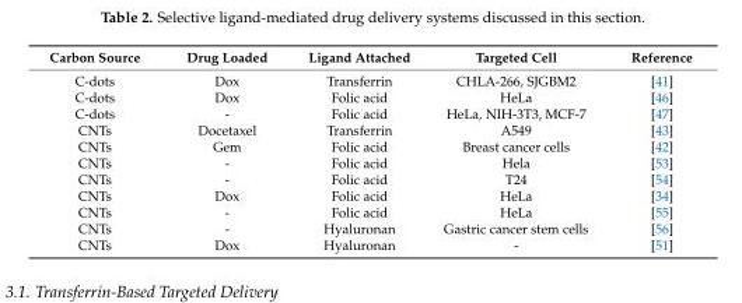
<table><thead><tr><td>Carbon Source</td><td>Drug Loaded</td><td>Ligand Attached</td><td>Targeted Cell</td><td>Reference</td></tr></thead><tbody><tr><td>C-dots</td><td>Dox</td><td>Transferrin</td><td>CHLA-266, SJGBM2</td><td>[41]</td></tr><tr><td>C-dots</td><td>Dox</td><td>Folic acid</td><td>HeLa</td><td>[46]</td></tr><tr><td>C-dots</td><td>-</td><td>Folic acid</td><td>HeLa, NIH-3T3, MCF-7</td><td>[47]</td></tr><tr><td>CNTs</td><td>Docetaxel</td><td>Transferrin</td><td>A549</td><td>[43]</td></tr><tr><td>CNTs</td><td>Gem</td><td>Folic acid</td><td>Breast cancer cells</td><td>[42]</td></tr><tr><td>CNTs</td><td>-</td><td>Folic acid</td><td>Hela</td><td>[53]</td></tr><tr><td>CNTs</td><td>-</td><td>Folic acid</td><td>T24</td><td>[54]</td></tr><tr><td>CNTs</td><td>Dox</td><td>Folic acid</td><td>HeLa</td><td>[34]</td></tr><tr><td>CNTs</td><td>-</td><td>Folic acid</td><td>HeLa</td><td>[55]</td></tr><tr><td>CNTs</td><td>-</td><td>Hyaluronan</td><td>Gastric cancer stem cells</td><td>[56]</td></tr><tr><td>CNTs</td><td>Dox</td><td>Hyaluronan</td><td>-</td><td>[51]</td></tr></tbody></table>